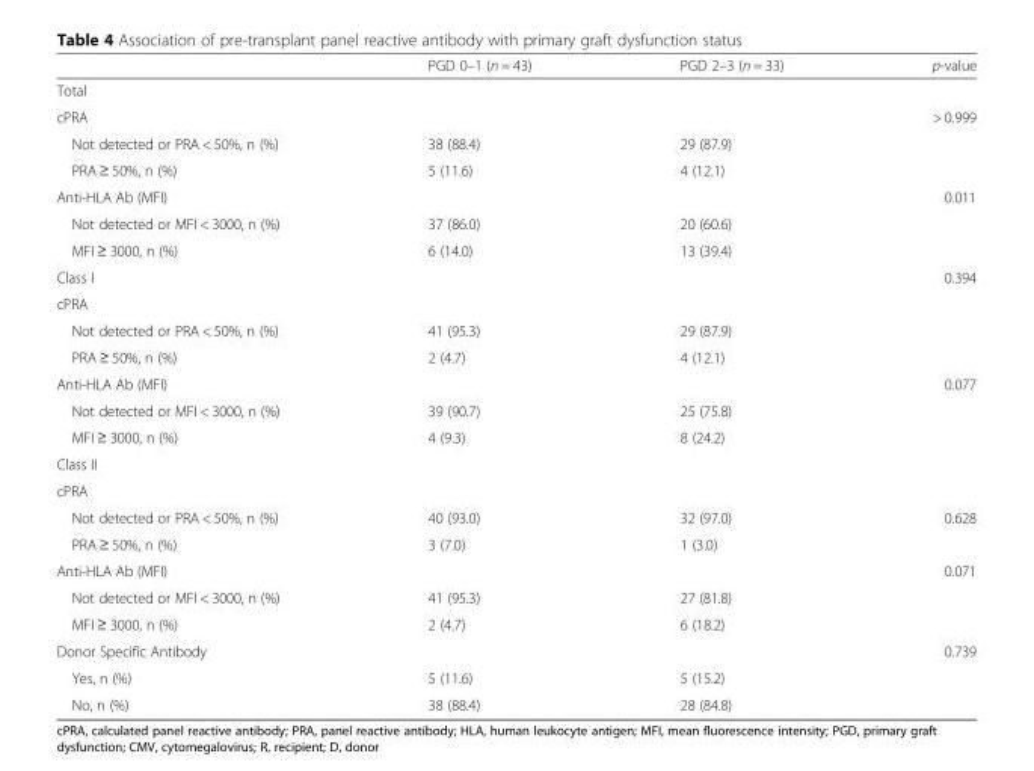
<table><thead><tr><td></td><td>PGD 0–1 (n = 43)</td><td>PGD 2–3 (n = 33)</td><td>p-value</td></tr></thead><tbody><tr><td colspan="4">Total</td></tr><tr><td>cPRA</td><td></td><td></td><td>&gt; 0.999</td></tr><tr><td>Not detected or PRA &lt; 50%, n (%)</td><td>38 (88.4)</td><td>29 (87.9)</td><td></td></tr><tr><td>PRA ≥ 50%, n (%)</td><td>5 (11.6)</td><td>4 (12.1)</td><td></td></tr><tr><td>Anti-HLA Ab (MFI)</td><td></td><td></td><td>0.011</td></tr><tr><td>Not detected or MFI &lt; 3000, n (%)</td><td>37 (86.0)</td><td>20 (60.6)</td><td></td></tr><tr><td>MFI ≥ 3000, n (%)</td><td>6 (14.0)</td><td>13 (39.4)</td><td></td></tr><tr><td>Class I</td><td></td><td></td><td>0.394</td></tr><tr><td colspan="4">cPRA</td></tr><tr><td>Not detected or PRA &lt; 50%, n (%)</td><td>41 (95.3)</td><td>29 (87.9)</td><td></td></tr><tr><td>PRA ≥ 50%, n (%)</td><td>2 (4.7)</td><td>4 (12.1)</td><td></td></tr><tr><td>Anti-HLA Ab (MFI)</td><td></td><td></td><td>0.077</td></tr><tr><td>Not detected or MFI &lt; 3000, n (%)</td><td>39 (90.7)</td><td>25 (75.8)</td><td></td></tr><tr><td>MFI ≥ 3000, n (%)</td><td>4 (9.3)</td><td>8 (24.2)</td><td></td></tr><tr><td colspan="4">Class II</td></tr><tr><td colspan="4">cPRA</td></tr><tr><td>Not detected or PRA &lt; 50%, n (%)</td><td>40 (93.0)</td><td>32 (97.0)</td><td>0.628</td></tr><tr><td>PRA ≥ 50%, n (%)</td><td>3 (7.0)</td><td>1 (3.0)</td><td></td></tr><tr><td>Anti-HLA Ab (MFI)</td><td></td><td></td><td>0.071</td></tr><tr><td>Not detected or MFI &lt; 3000, n (%)</td><td>41 (95.3)</td><td>27 (81.8)</td><td></td></tr><tr><td>MFI ≥ 3000, n (%)</td><td>2 (4.7)</td><td>6 (18.2)</td><td></td></tr><tr><td>Donor Specific Antibody</td><td></td><td></td><td>0.739</td></tr><tr><td>Yes, n (%)</td><td>5 (11.6)</td><td>5 (15.2)</td><td></td></tr><tr><td>No, n (%)</td><td>38 (88.4)</td><td>28 (84.8)</td><td></td></tr></tbody></table>